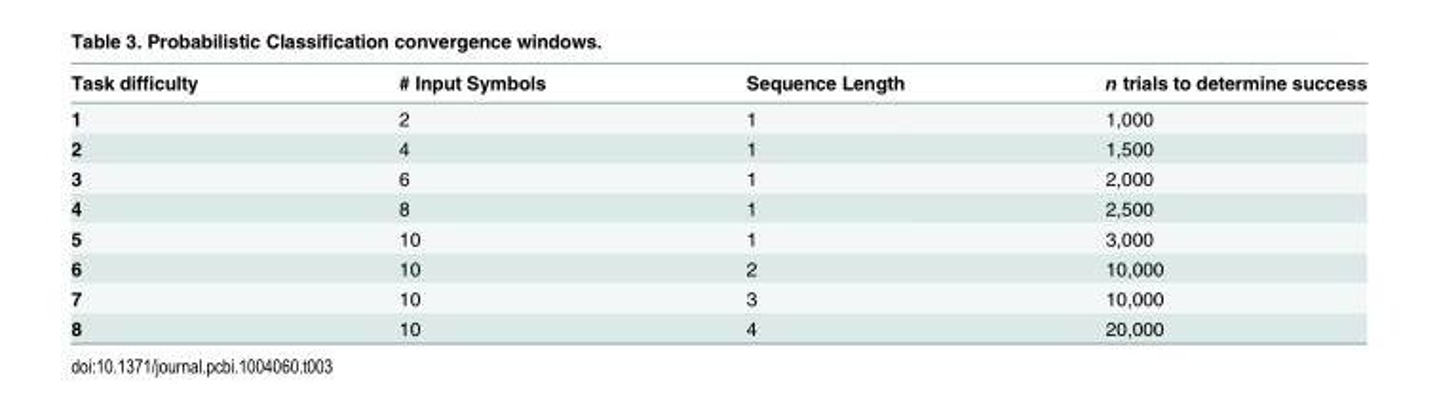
<table><thead><tr><td>Task difficulty</td><td># Input Symbols</td><td>Sequence Length</td><td>n trials to determine success</td></tr></thead><tbody><tr><td>1</td><td>2</td><td>1</td><td>1,000</td></tr><tr><td>2</td><td>4</td><td>1</td><td>1,500</td></tr><tr><td>3</td><td>6</td><td>1</td><td>2,000</td></tr><tr><td>4</td><td>8</td><td>1</td><td>2,500</td></tr><tr><td>5</td><td>10</td><td>1</td><td>3,000</td></tr><tr><td>6</td><td>10</td><td>2</td><td>10,000</td></tr><tr><td>7</td><td>10</td><td>3</td><td>10,000</td></tr><tr><td>8</td><td>10</td><td>4</td><td>20,000</td></tr></tbody></table>